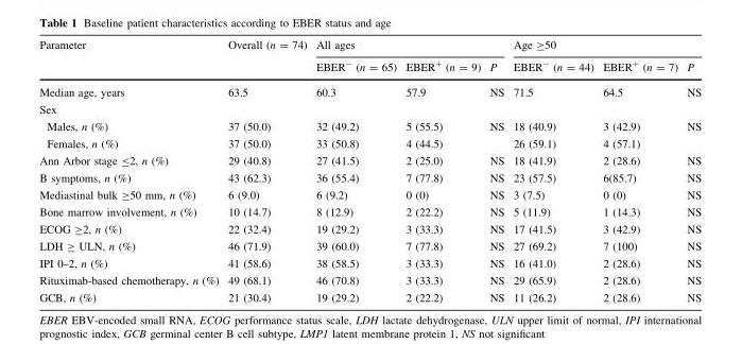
<table><thead><tr><td rowspan="2">Parameter</td><td rowspan="2">Overall (n = 74)</td><td colspan="3">All ages</td><td colspan="3">Age ≥50</td></tr><tr><td>EBER<sup>-</sup> (n = 65)</td><td>EBER<sup>+</sup> (n = 9)</td><td>P</td><td>EBER<sup>-</sup> (n = 44)</td><td>EBER<sup>+</sup> (n = 7)</td><td>P</td></tr></thead><tbody><tr><td>Median age, years</td><td>63.5</td><td>60.3</td><td>57.9</td><td>NS</td><td>71.5</td><td>64.5</td><td>NS</td></tr><tr><td colspan="8">Sex</td></tr><tr><td>Males, n (%)</td><td>37 (50.0)</td><td>32 (49.2)</td><td>5 (55.5)</td><td rowspan="2">NS</td><td>18 (40.9)</td><td>3 (42.9)</td><td rowspan="2">NS</td></tr><tr><td>Females, n (%)</td><td>37 (50.0)</td><td>33 (50.8)</td><td>4 (44.5)</td><td>26 (59.1)</td><td>4 (57.1)</td></tr><tr><td>Ann Arbor stage ≤2, n (%)</td><td>29 (40.8)</td><td>27 (41.5)</td><td>2 (25.0)</td><td>NS</td><td>18 (41.9)</td><td>2 (28.6)</td><td>NS</td></tr><tr><td>B symptoms, n (%)</td><td>43 (62.3)</td><td>36 (55.4)</td><td>7 (77.8)</td><td>NS</td><td>23 (57.5)</td><td>6(85.7)</td><td>NS</td></tr><tr><td>Mediastinal bulk ≥50 mm, n (%)</td><td>6 (9.0)</td><td>6 (9.2)</td><td>0 (0)</td><td>NS</td><td>3 (7.5)</td><td>0 (0)</td><td>NS</td></tr><tr><td>Bone marrow involvement, n (%)</td><td>10 (14.7)</td><td>8 (12.9)</td><td>2 (22.2)</td><td>NS</td><td>5 (11.9)</td><td>1 (14.3)</td><td>NS</td></tr><tr><td>ECOG ≥2, n (%)</td><td>22 (32.4)</td><td>19 (29.2)</td><td>3 (33.3)</td><td>NS</td><td>17 (41.5)</td><td>3 (42.9)</td><td>NS</td></tr><tr><td>LDH ≥ ULN, n (%)</td><td>46 (71.9)</td><td>39 (60.0)</td><td>7 (77.8)</td><td>NS</td><td>27 (69.2)</td><td>7 (100)</td><td>NS</td></tr><tr><td>IPI 0–2, n (%)</td><td>41 (58.6)</td><td>38 (58.5)</td><td>3 (33.3)</td><td>NS</td><td>16 (41.0)</td><td>2 (28.6)</td><td>NS</td></tr><tr><td>Rituximab-based chemotherapy, n (%)</td><td>49 (68.1)</td><td>46 (70.8)</td><td>3 (33.3)</td><td>NS</td><td>29 (65.9)</td><td>2 (28.6)</td><td>NS</td></tr><tr><td>GCB, n (%)</td><td>21 (30.4)</td><td>19 (29.2)</td><td>2 (22.2)</td><td>NS</td><td>11 (26.2)</td><td>2 (28.6)</td><td>NS</td></tr></tbody></table>